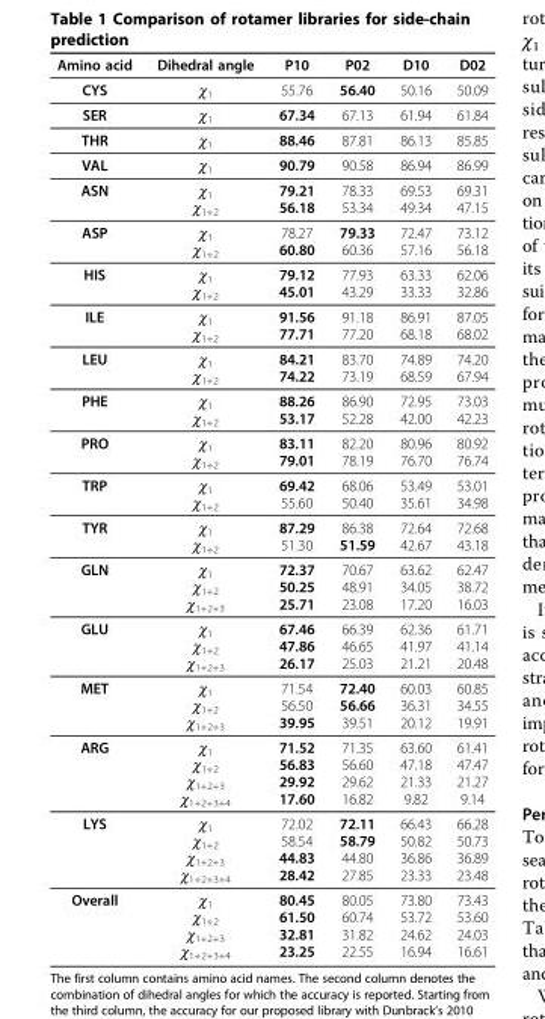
<table><thead><tr><td>Amino acid</td><td>Dihedral angle</td><td>P10</td><td>P02</td><td>D10</td><td>D02</td></tr></thead><tbody><tr><td>CYS</td><td>χ<sub>1</sub></td><td>55.76</td><td>56.40</td><td>50.16</td><td>50.09</td></tr><tr><td>SER</td><td>χ<sub>1</sub></td><td>67.34</td><td>67.13</td><td>61.94</td><td>61.84</td></tr><tr><td>THR</td><td>χ<sub>1</sub></td><td>88.46</td><td>87.81</td><td>86.13</td><td>85.85</td></tr><tr><td>VAL</td><td>χ<sub>1</sub></td><td>90.79</td><td>90.58</td><td>86.94</td><td>86.99</td></tr><tr><td>ASN</td><td>χ<sub>1</sub> χ<sub>1+2</sub></td><td>79.21 56.18</td><td>78.33 53.34</td><td>69.53 49.34</td><td>69.31 47.15</td></tr><tr><td>ASP</td><td>χ<sub>1</sub> χ<sub>1+2</sub></td><td>78.27 60.80</td><td>79.33 60.36</td><td>72.47 57.16</td><td>73.12 56.18</td></tr><tr><td>HIS</td><td>χ<sub>1</sub> χ<sub>1+2</sub></td><td>79.12 45.01</td><td>77.93 43.29</td><td>63.33 33.33</td><td>62.06 32.86</td></tr><tr><td>ILE</td><td>χ<sub>1</sub> χ<sub>1+2</sub></td><td>91.56 77.71</td><td>91.18 77.20</td><td>86.91 68.18</td><td>87.05 68.02</td></tr><tr><td>LEU</td><td>χ<sub>1</sub> χ<sub>1+2</sub></td><td>84.21 74.22</td><td>83.70 73.19</td><td>74.89 68.59</td><td>74.20 67.94</td></tr><tr><td>PHE</td><td>χ<sub>1</sub> χ<sub>1+2</sub></td><td>88.26 53.17</td><td>86.90 52.28</td><td>72.95 42.00</td><td>73.03 42.23</td></tr><tr><td>PRO</td><td>χ<sub>1</sub> χ<sub>1+2</sub></td><td>83.11 79.01</td><td>82.20 78.19</td><td>80.96 76.70</td><td>80.92 76.74</td></tr><tr><td>TRP</td><td>χ<sub>1</sub> χ<sub>1+2</sub></td><td>69.42 55.60</td><td>68.06 50.40</td><td>53.49 35.61</td><td>53.01 34.98</td></tr><tr><td>TYR</td><td>χ<sub>1</sub> χ<sub>1+2</sub></td><td>87.29 51.30</td><td>86.38 51.59</td><td>72.64 42.67</td><td>72.68 43.18</td></tr><tr><td>GLN</td><td>χ<sub>1</sub> χ<sub>1+2</sub> χ<sub>1+2+3</sub></td><td>72.37 50.25 25.71</td><td>70.67 48.91 23.08</td><td>63.62 34.05 17.20</td><td>62.47 38.72 16.03</td></tr><tr><td>GLU</td><td>χ<sub>1</sub> χ<sub>1+2</sub> χ<sub>1+2+3</sub></td><td>67.46 47.86 26.17</td><td>66.39 46.65 25.03</td><td>62.36 41.97 21.21</td><td>61.71 41.14 20.48</td></tr><tr><td>MET</td><td>χ<sub>1</sub> χ<sub>1+2</sub> χ<sub>1+2+3</sub></td><td>71.54 56.50 39.95</td><td>72.40 56.66 39.51</td><td>60.03 36.31 20.12</td><td>60.85 34.55 19.91</td></tr><tr><td>ARG</td><td>χ<sub>1</sub> χ<sub>1+2</sub> χ<sub>1+2+3</sub> χ<sub>1+2+3+4</sub></td><td>71.52 56.83 29.92 17.60</td><td>71.35 56.60 29.62 16.82</td><td>63.60 47.18 21.33 9.82</td><td>61.41 47.47 21.27 9.14</td></tr><tr><td>LYS</td><td>χ<sub>1</sub> χ<sub>1+2</sub> χ<sub>1+2+3</sub> χ<sub>1+2+3+4</sub></td><td>72.02 58.54 44.83 28.42</td><td>72.11 58.79 44.80 27.85</td><td>66.43 50.82 36.86 23.33</td><td>66.28 50.73 36.89 23.48</td></tr><tr><td>Overall</td><td>χ<sub>1</sub> χ<sub>1+2</sub> χ<sub>1+2+3</sub> χ<sub>1+2+3+4</sub></td><td>80.45 61.50 32.81 23.25</td><td>80.05 60.74 31.82 22.55</td><td>73.80 53.72 24.62 16.94</td><td>73.43 53.60 24.03 16.61</td></tr></tbody></table>